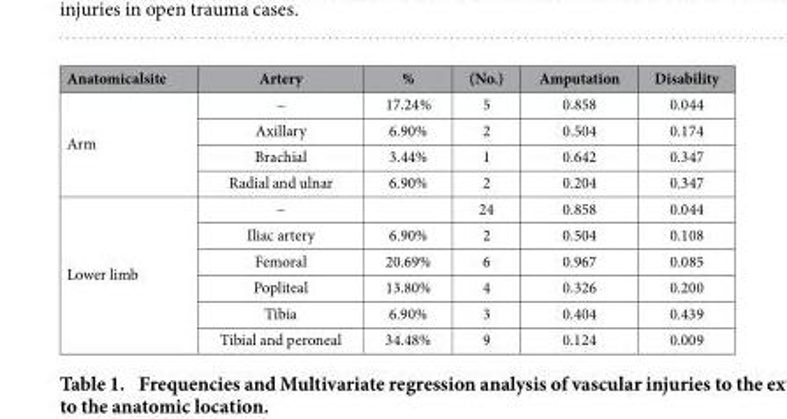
<table><thead><tr><td>Anatomicalsite</td><td>Artery</td><td>%</td><td>(No.)</td><td>Amputation</td><td>Disability</td></tr></thead><tbody><tr><td rowspan="4">Arm</td><td>–</td><td>17.24%</td><td>5</td><td>0.858</td><td>0.044</td></tr><tr><td>Axillary</td><td>6.90%</td><td>2</td><td>0.504</td><td>0.174</td></tr><tr><td>Brachial</td><td>3.44%</td><td>1</td><td>0.642</td><td>0.347</td></tr><tr><td>Radial and ulnar</td><td>6.90%</td><td>2</td><td>0.204</td><td>0.347</td></tr><tr><td rowspan="6">Lower limb</td><td>–</td><td></td><td>24</td><td>0.858</td><td>0.044</td></tr><tr><td>Iliac artery</td><td>6.90%</td><td>2</td><td>0.504</td><td>0.108</td></tr><tr><td>Femoral</td><td>20.69%</td><td>6</td><td>0.967</td><td>0.085</td></tr><tr><td>Popliteal</td><td>13.80%</td><td>4</td><td>0.326</td><td>0.200</td></tr><tr><td>Tibia</td><td>6.90%</td><td>3</td><td>0.404</td><td>0.439</td></tr><tr><td>Tibial and peroneal</td><td>34.48%</td><td>9</td><td>0.124</td><td>0.009</td></tr></tbody></table>